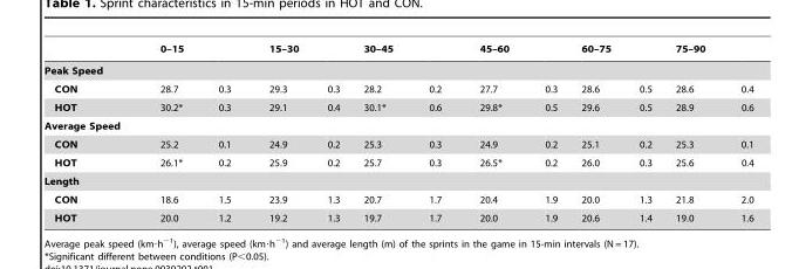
<table><thead><tr><td></td><td>0–15</td><td></td><td>15–30</td><td></td><td>30–45</td><td></td><td>45–60</td><td></td><td>60–75</td><td></td><td>75–90</td><td></td></tr></thead><tbody><tr><td colspan="13">Peak Speed</td></tr><tr><td>CON</td><td>28.7</td><td>0.3</td><td>29.3</td><td>0.3</td><td>28.2</td><td>0.2</td><td>27.7</td><td>0.3</td><td>28.6</td><td>0.5</td><td>28.6</td><td>0.4</td></tr><tr><td>HOT</td><td>30.2*</td><td>0.3</td><td>29.1</td><td>0.4</td><td>30.1*</td><td>0.6</td><td>29.8*</td><td>0.5</td><td>29.6</td><td>0.5</td><td>28.9</td><td>0.6</td></tr><tr><td colspan="13">Average Speed</td></tr><tr><td>CON</td><td>25.2</td><td>0.1</td><td>24.9</td><td>0.2</td><td>25.3</td><td>0.3</td><td>24.9</td><td>0.2</td><td>25.1</td><td>0.2</td><td>25.3</td><td>0.1</td></tr><tr><td>HOT</td><td>26.1*</td><td>0.2</td><td>25.9</td><td>0.2</td><td>25.7</td><td>0.3</td><td>26.5*</td><td>0.2</td><td>26.0</td><td>0.3</td><td>25.6</td><td>0.4</td></tr><tr><td colspan="13">Length</td></tr><tr><td>CON</td><td>18.6</td><td>1.5</td><td>23.9</td><td>1.3</td><td>20.7</td><td>1.7</td><td>20.4</td><td>1.9</td><td>20.0</td><td>1.3</td><td>21.8</td><td>2.0</td></tr><tr><td>HOT</td><td>20.0</td><td>1.2</td><td>19.2</td><td>1.3</td><td>19.7</td><td>1.7</td><td>20.0</td><td>1.9</td><td>20.6</td><td>1.4</td><td>19.0</td><td>1.6</td></tr></tbody></table>